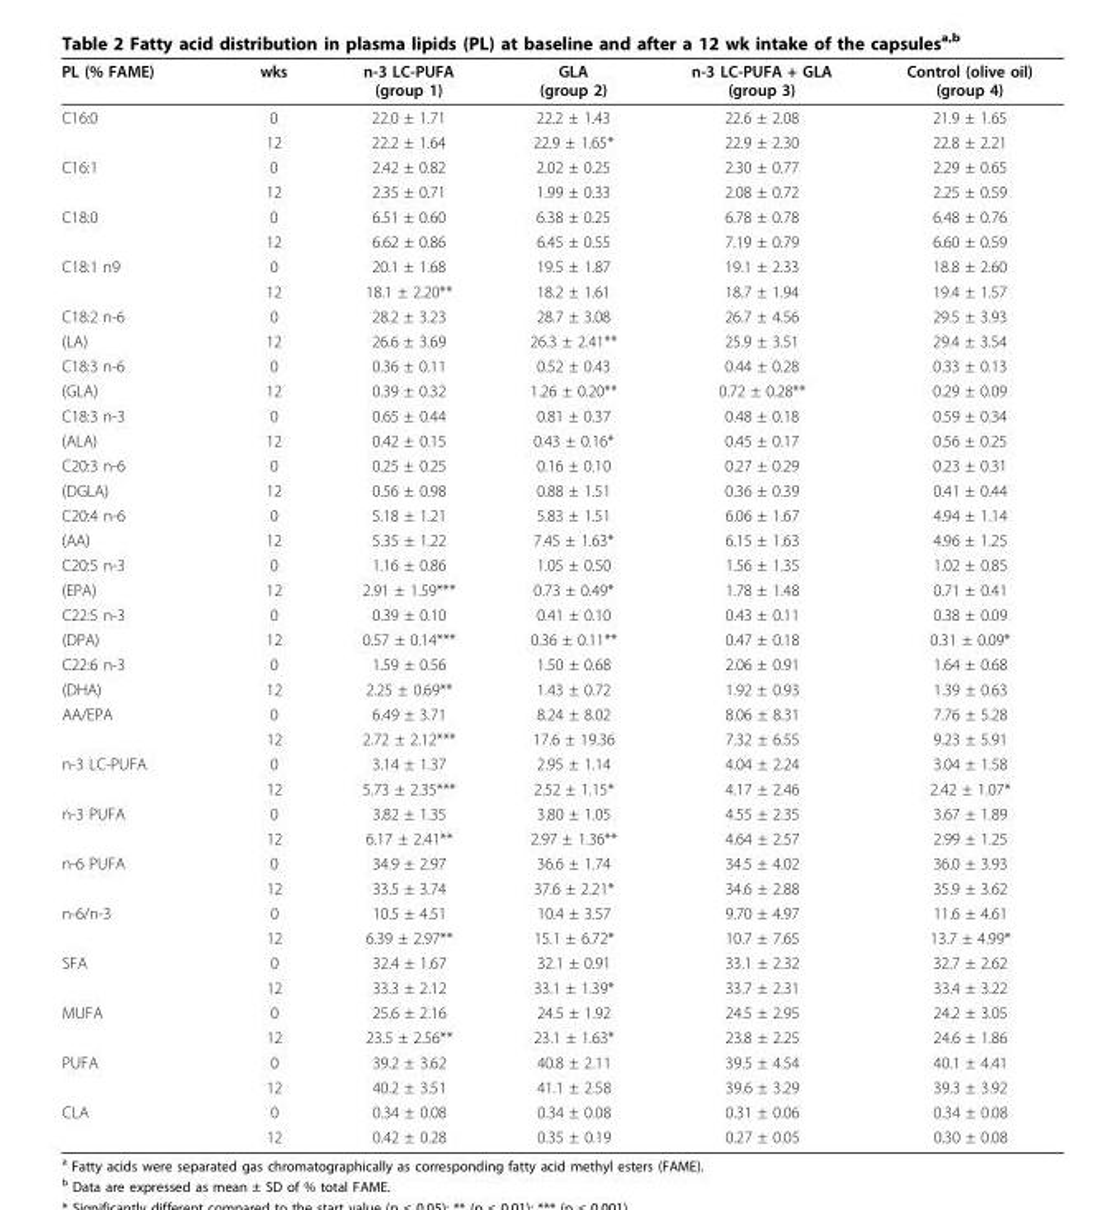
<table><thead><tr><td>PL (% FAME)</td><td>wks</td><td>n-3 LC-PUFA (group 1)</td><td>GLA (group 2)</td><td>n-3 LC-PUFA + GLA (group 3)</td><td>Control (olive oil) (group 4)</td></tr></thead><tbody><tr><td rowspan="2">C16:0</td><td>0</td><td>22.0 ± 1.71</td><td>22.2 ± 1.43</td><td>22.6 ± 2.08</td><td>21.9 ± 1.65</td></tr><tr><td>12</td><td>22.2 ± 1.64</td><td>22.9 ± 1.65*</td><td>22.9 ± 2.30</td><td>22.8 ± 2.21</td></tr><tr><td rowspan="2">C16:1</td><td>0</td><td>2.42 ± 0.82</td><td>2.02 ± 0.25</td><td>2.30 ± 0.77</td><td>2.29 ± 0.65</td></tr><tr><td>12</td><td>2.35 ± 0.71</td><td>1.99 ± 0.33</td><td>2.08 ± 0.72</td><td>2.25 ± 0.59</td></tr><tr><td rowspan="2">C18:0</td><td>0</td><td>6.51 ± 0.60</td><td>6.38 ± 0.25</td><td>6.78 ± 0.78</td><td>6.48 ± 0.76</td></tr><tr><td>12</td><td>6.62 ± 0.86</td><td>6.45 ± 0.55</td><td>7.19 ± 0.79</td><td>6.60 ± 0.59</td></tr><tr><td rowspan="2">C18:1 n9</td><td>0</td><td>20.1 ± 1.68</td><td>19.5 ± 1.87</td><td>19.1 ± 2.33</td><td>18.8 ± 2.60</td></tr><tr><td>12</td><td>18.1 ± 2.20**</td><td>18.2 ± 1.61</td><td>18.7 ± 1.94</td><td>19.4 ± 1.57</td></tr><tr><td>C18:2 n-6</td><td>0</td><td>28.2 ± 3.23</td><td>28.7 ± 3.08</td><td>26.7 ± 4.56</td><td>29.5 ± 3.93</td></tr><tr><td>(LA)</td><td>12</td><td>26.6 ± 3.69</td><td>26.3 ± 2.41**</td><td>25.9 ± 3.51</td><td>29.4 ± 3.54</td></tr><tr><td>C18:3 n-6</td><td>0</td><td>0.36 ± 0.11</td><td>0.52 ± 0.43</td><td>0.44 ± 0.28</td><td>0.33 ± 0.13</td></tr><tr><td>(GLA)</td><td>12</td><td>0.39 ± 0.32</td><td>1.26 ± 0.20**</td><td>0.72 ± 0.28**</td><td>0.29 ± 0.09</td></tr><tr><td>C18:3 n-3</td><td>0</td><td>0.65 ± 0.44</td><td>0.81 ± 0.37</td><td>0.48 ± 0.18</td><td>0.59 ± 0.34</td></tr><tr><td>(ALA)</td><td>12</td><td>0.42 ± 0.15</td><td>0.43 ± 0.16*</td><td>0.45 ± 0.17</td><td>0.56 ± 0.25</td></tr><tr><td>C20:3 n-6</td><td>0</td><td>0.25 ± 0.25</td><td>0.16 ± 0.10</td><td>0.27 ± 0.29</td><td>0.23 ± 0.31</td></tr><tr><td>(DGLA)</td><td>12</td><td>0.56 ± 0.98</td><td>0.88 ± 1.51</td><td>0.36 ± 0.39</td><td>0.41 ± 0.44</td></tr><tr><td>C20:4 n-6</td><td>0</td><td>5.18 ± 1.21</td><td>5.83 ± 1.51</td><td>6.06 ± 1.67</td><td>4.94 ± 1.14</td></tr><tr><td>(AA)</td><td>12</td><td>5.35 ± 1.22</td><td>7.45 ± 1.63*</td><td>6.15 ± 1.63</td><td>4.96 ± 1.25</td></tr><tr><td>C20:5 n-3</td><td>0</td><td>1.16 ± 0.86</td><td>1.05 ± 0.50</td><td>1.56 ± 1.35</td><td>1.02 ± 0.85</td></tr><tr><td>(EPA)</td><td>12</td><td>2.91 ± 1.59***</td><td>0.73 ± 0.49*</td><td>1.78 ± 1.48</td><td>0.71 ± 0.41</td></tr><tr><td>C22:5 n-3</td><td>0</td><td>0.39 ± 0.10</td><td>0.41 ± 0.10</td><td>0.43 ± 0.11</td><td>0.38 ± 0.09</td></tr><tr><td>(DPA)</td><td>12</td><td>0.57 ± 0.14***</td><td>0.36 ± 0.11**</td><td>0.47 ± 0.18</td><td>0.31 ± 0.09*</td></tr><tr><td>C22:6 n-3</td><td>0</td><td>1.59 ± 0.56</td><td>1.50 ± 0.68</td><td>2.06 ± 0.91</td><td>1.64 ± 0.68</td></tr><tr><td>(DHA)</td><td>12</td><td>2.25 ± 0.69**</td><td>1.43 ± 0.72</td><td>1.92 ± 0.93</td><td>1.39 ± 0.63</td></tr><tr><td rowspan="2">AA/EPA</td><td>0</td><td>6.49 ± 3.71</td><td>8.24 ± 8.02</td><td>8.06 ± 8.31</td><td>7.76 ± 5.28</td></tr><tr><td>12</td><td>2.72 ± 2.12***</td><td>17.6 ± 19.36</td><td>7.32 ± 6.55</td><td>9.23 ± 5.91</td></tr><tr><td rowspan="2">n-3 LC-PUFA</td><td>0</td><td>3.14 ± 1.37</td><td>2.95 ± 1.14</td><td>4.04 ± 2.24</td><td>3.04 ± 1.58</td></tr><tr><td>12</td><td>5.73 ± 2.35***</td><td>2.52 ± 1.15*</td><td>4.17 ± 2.46</td><td>2.42 ± 1.07*</td></tr><tr><td rowspan="2">n-3 PUFA</td><td>0</td><td>3.82 ± 1.35</td><td>3.80 ± 1.05</td><td>4.55 ± 2.35</td><td>3.67 ± 1.89</td></tr><tr><td>12</td><td>6.17 ± 2.41**</td><td>2.97 ± 1.36**</td><td>4.64 ± 2.57</td><td>2.99 ± 1.25</td></tr><tr><td rowspan="2">n-6 PUFA</td><td>0</td><td>34.9 ± 2.97</td><td>36.6 ± 1.74</td><td>34.5 ± 4.02</td><td>36.0 ± 3.93</td></tr><tr><td>12</td><td>33.5 ± 3.74</td><td>37.6 ± 2.21*</td><td>34.6 ± 2.88</td><td>35.9 ± 3.62</td></tr><tr><td rowspan="2">n-6/n-3</td><td>0</td><td>10.5 ± 4.51</td><td>10.4 ± 3.57</td><td>9.70 ± 4.97</td><td>11.6 ± 4.61</td></tr><tr><td>12</td><td>6.39 ± 2.97**</td><td>15.1 ± 6.72*</td><td>10.7 ± 7.65</td><td>13.7 ± 4.99*</td></tr><tr><td rowspan="2">SFA</td><td>0</td><td>32.4 ± 1.67</td><td>32.1 ± 0.91</td><td>33.1 ± 2.32</td><td>32.7 ± 2.62</td></tr><tr><td>12</td><td>33.3 ± 2.12</td><td>33.1 ± 1.39*</td><td>33.7 ± 2.31</td><td>33.4 ± 3.22</td></tr><tr><td rowspan="2">MUFA</td><td>0</td><td>25.6 ± 2.16</td><td>24.5 ± 1.92</td><td>24.5 ± 2.95</td><td>24.2 ± 3.05</td></tr><tr><td>12</td><td>23.5 ± 2.56**</td><td>23.1 ± 1.63*</td><td>23.8 ± 2.25</td><td>24.6 ± 1.86</td></tr><tr><td rowspan="2">PUFA</td><td>0</td><td>39.2 ± 3.62</td><td>40.8 ± 2.11</td><td>39.5 ± 4.54</td><td>40.1 ± 4.41</td></tr><tr><td>12</td><td>40.2 ± 3.51</td><td>41.1 ± 2.58</td><td>39.6 ± 3.29</td><td>39.3 ± 3.92</td></tr><tr><td rowspan="2">CLA</td><td>0</td><td>0.34 ± 0.08</td><td>0.34 ± 0.08</td><td>0.31 ± 0.06</td><td>0.34 ± 0.08</td></tr><tr><td>12</td><td>0.42 ± 0.28</td><td>0.35 ± 0.19</td><td>0.27 ± 0.05</td><td>0.30 ± 0.08</td></tr></tbody></table>